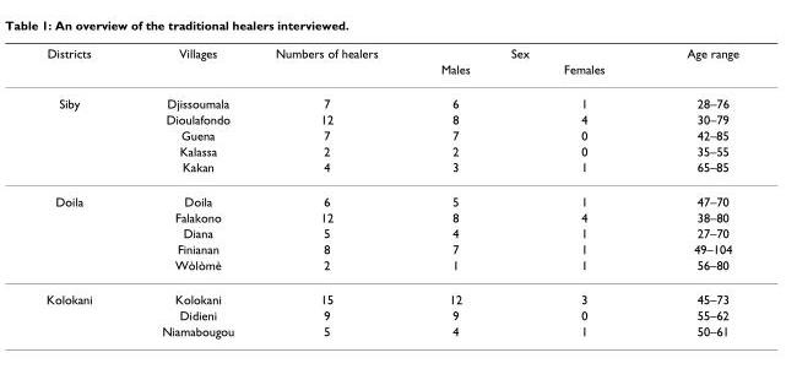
<table><thead><tr><td rowspan="2">Districts</td><td rowspan="2">Villages</td><td rowspan="2">Numbers of healers</td><td colspan="2">Sex</td><td rowspan="2">Age range</td></tr><tr><td>Males</td><td>Females</td></tr></thead><tbody><tr><td rowspan="5">Siby</td><td>Djissoumala</td><td>7</td><td>6</td><td>1</td><td>28–76</td></tr><tr><td>Dioulafondo</td><td>12</td><td>8</td><td>4</td><td>30–79</td></tr><tr><td>Guena</td><td>7</td><td>7</td><td>0</td><td>42–85</td></tr><tr><td>Kalassa</td><td>2</td><td>2</td><td>0</td><td>35–55</td></tr><tr><td>Kakan</td><td>4</td><td>3</td><td>1</td><td>65–85</td></tr><tr><td rowspan="5">Doila</td><td>Doila</td><td>6</td><td>5</td><td>1</td><td>47–70</td></tr><tr><td>Falakono</td><td>12</td><td>8</td><td>4</td><td>38–80</td></tr><tr><td>Diana</td><td>5</td><td>4</td><td>1</td><td>27–70</td></tr><tr><td>Finianan</td><td>8</td><td>7</td><td>1</td><td>49–104</td></tr><tr><td>Wòlòmè</td><td>2</td><td>1</td><td>1</td><td>56–80</td></tr><tr><td rowspan="3">Kolokani</td><td>Kolokani</td><td>15</td><td>12</td><td>3</td><td>45–73</td></tr><tr><td>Didieni</td><td>9</td><td>9</td><td>0</td><td>55–62</td></tr><tr><td>Niamabougou</td><td>5</td><td>4</td><td>1</td><td>50–61</td></tr></tbody></table>